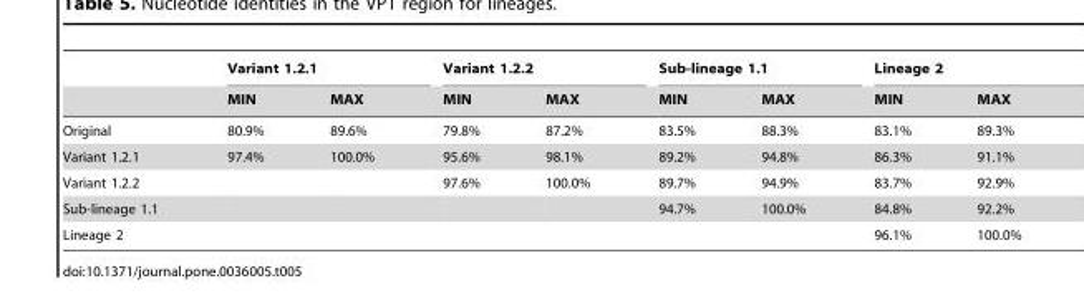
<table><thead><tr><td rowspan="2"></td><td colspan="2">Variant 1.2.1</td><td colspan="2">Variant 1.2.2</td><td colspan="2">Sub-lineage 1.1</td><td colspan="2">Lineage 2</td></tr><tr><td>MIN</td><td>MAX</td><td>MIN</td><td>MAX</td><td>MIN</td><td>MAX</td><td>MIN</td><td>MAX</td></tr></thead><tbody><tr><td>Original</td><td>80.9%</td><td>89.6%</td><td>79.8%</td><td>87.2%</td><td>83.5%</td><td>88.3%</td><td>83.1%</td><td>89.3%</td></tr><tr><td>Variant 1.2.1</td><td>97.4%</td><td>100.0%</td><td>95.6%</td><td>98.1%</td><td>89.2%</td><td>94.8%</td><td>86.3%</td><td>91.1%</td></tr><tr><td>Variant 1.2.2</td><td></td><td></td><td>97.6%</td><td>100.0%</td><td>89.7%</td><td>94.9%</td><td>83.7%</td><td>92.9%</td></tr><tr><td>Sub-lineage 1.1</td><td></td><td></td><td></td><td></td><td>94.7%</td><td>100.0%</td><td>84.8%</td><td>92.2%</td></tr><tr><td>Lineage 2</td><td></td><td></td><td></td><td></td><td></td><td></td><td>96.1%</td><td>100.0%</td></tr></tbody></table>